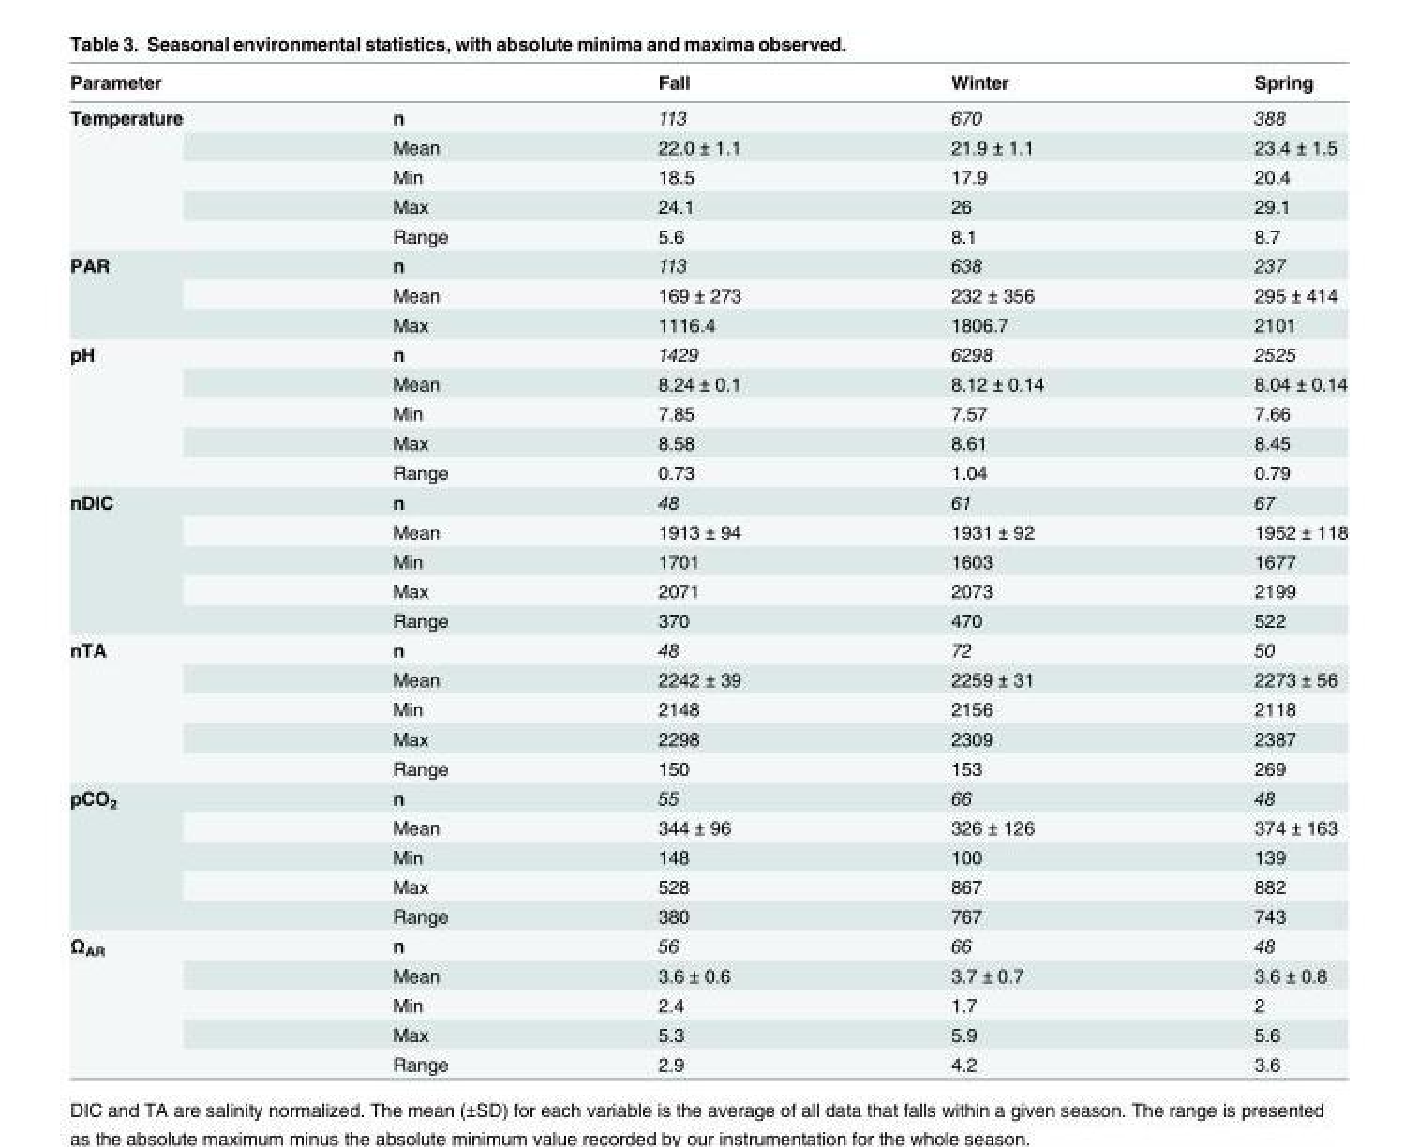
<table><thead><tr><td>Parameter</td><td></td><td>Fall</td><td>Winter</td><td>Spring</td></tr></thead><tbody><tr><td rowspan="5">Temperature</td><td>n</td><td>113</td><td>670</td><td>388</td></tr><tr><td>Mean</td><td>22.0 ± 1.1</td><td>21.9 ± 1.1</td><td>23.4 ± 1.5</td></tr><tr><td>Min</td><td>18.5</td><td>17.9</td><td>20.4</td></tr><tr><td>Max</td><td>24.1</td><td>26</td><td>29.1</td></tr><tr><td>Range</td><td>5.6</td><td>8.1</td><td>8.7</td></tr><tr><td rowspan="3">PAR</td><td>n</td><td>113</td><td>638</td><td>237</td></tr><tr><td>Mean</td><td>169 ± 273</td><td>232 ± 356</td><td>295 ± 414</td></tr><tr><td>Max</td><td>1116.4</td><td>1806.7</td><td>2101</td></tr><tr><td rowspan="5">pH</td><td>n</td><td>1429</td><td>6298</td><td>2525</td></tr><tr><td>Mean</td><td>8.24 ± 0.1</td><td>8.12 ± 0.14</td><td>8.04 ± 0.14</td></tr><tr><td>Min</td><td>7.85</td><td>7.57</td><td>7.66</td></tr><tr><td>Max</td><td>8.58</td><td>8.61</td><td>8.45</td></tr><tr><td>Range</td><td>0.73</td><td>1.04</td><td>0.79</td></tr><tr><td rowspan="5">nDIC</td><td>n</td><td>48</td><td>61</td><td>67</td></tr><tr><td>Mean</td><td>1913 ± 94</td><td>1931 ± 92</td><td>1952 ± 118</td></tr><tr><td>Min</td><td>1701</td><td>1603</td><td>1677</td></tr><tr><td>Max</td><td>2071</td><td>2073</td><td>2199</td></tr><tr><td>Range</td><td>370</td><td>470</td><td>522</td></tr><tr><td rowspan="5">nTA</td><td>n</td><td>48</td><td>72</td><td>50</td></tr><tr><td>Mean</td><td>2242 ± 39</td><td>2259 ± 31</td><td>2273 ± 56</td></tr><tr><td>Min</td><td>2148</td><td>2156</td><td>2118</td></tr><tr><td>Max</td><td>2298</td><td>2309</td><td>2387</td></tr><tr><td>Range</td><td>150</td><td>153</td><td>269</td></tr><tr><td rowspan="5">pCO<sub>2</sub></td><td>n</td><td>55</td><td>66</td><td>48</td></tr><tr><td>Mean</td><td>344 ± 96</td><td>326 ± 126</td><td>374 ± 163</td></tr><tr><td>Min</td><td>148</td><td>100</td><td>139</td></tr><tr><td>Max</td><td>528</td><td>867</td><td>882</td></tr><tr><td>Range</td><td>380</td><td>767</td><td>743</td></tr><tr><td rowspan="5">Ω<sub>AR</sub></td><td>n</td><td>56</td><td>66</td><td>48</td></tr><tr><td>Mean</td><td>3.6 ± 0.6</td><td>3.7 ± 0.7</td><td>3.6 ± 0.8</td></tr><tr><td>Min</td><td>2.4</td><td>1.7</td><td>2</td></tr><tr><td>Max</td><td>5.3</td><td>5.9</td><td>5.6</td></tr><tr><td>Range</td><td>2.9</td><td>4.2</td><td>3.6</td></tr></tbody></table>